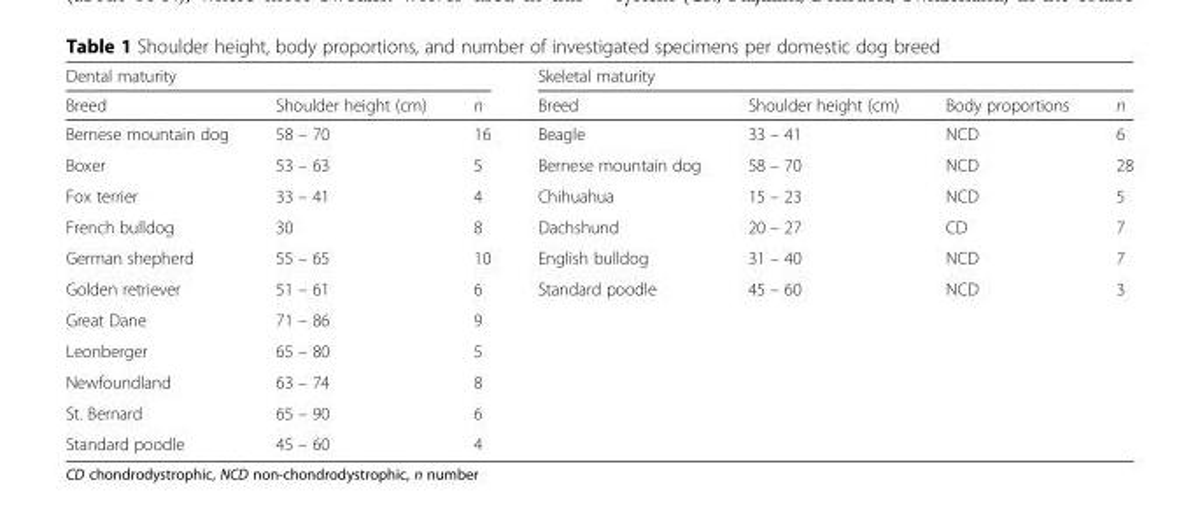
<table><thead><tr><td colspan="3">Dental maturity</td><td colspan="4">Skeletal maturity</td></tr><tr><td>Breed</td><td>Shoulder height (cm)</td><td>n</td><td>Breed</td><td>Shoulder height (cm)</td><td>Body proportions</td><td>n</td></tr></thead><tbody><tr><td>Bernese mountain dog</td><td>58 – 70</td><td>16</td><td>Beagle</td><td>33 – 41</td><td>NCD</td><td>6</td></tr><tr><td>Boxer</td><td>53 – 63</td><td>5</td><td>Bernese mountain dog</td><td>58 – 70</td><td>NCD</td><td>28</td></tr><tr><td>Fox terrier</td><td>33 – 41</td><td>4</td><td>Chihuahua</td><td>15 – 23</td><td>NCD</td><td>5</td></tr><tr><td>French bulldog</td><td>30</td><td>8</td><td>Dachshund</td><td>20 – 27</td><td>CD</td><td>7</td></tr><tr><td>German shepherd</td><td>55 – 65</td><td>10</td><td>English bulldog</td><td>31 – 40</td><td>NCD</td><td>7</td></tr><tr><td>Golden retriever</td><td>51 – 61</td><td>6</td><td>Standard poodle</td><td>45 – 60</td><td>NCD</td><td>3</td></tr><tr><td>Great Dane</td><td>71 – 86</td><td>9</td><td></td><td></td><td></td><td></td></tr><tr><td>Leonberger</td><td>65 – 80</td><td>5</td><td></td><td></td><td></td><td></td></tr><tr><td>Newfoundland</td><td>63 – 74</td><td>8</td><td></td><td></td><td></td><td></td></tr><tr><td>St. Bernard</td><td>65 – 90</td><td>6</td><td></td><td></td><td></td><td></td></tr><tr><td>Standard poodle</td><td>45 – 60</td><td>4</td><td></td><td></td><td></td><td></td></tr></tbody></table>